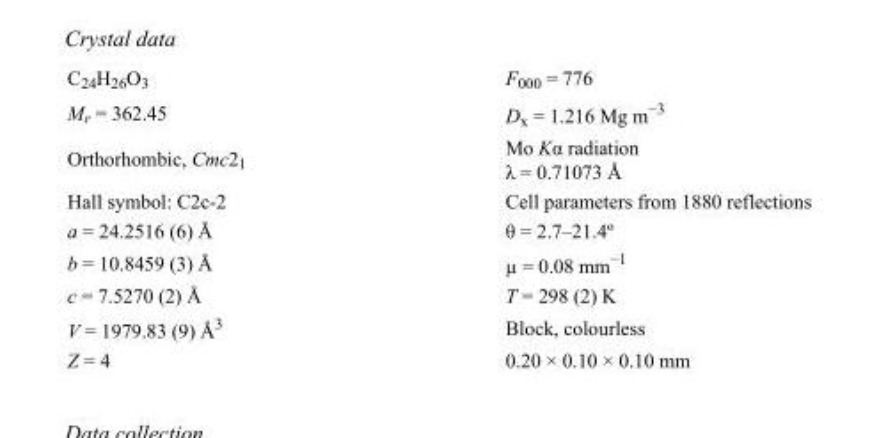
<table><tbody><tr><td>C<sub>24</sub>H<sub>26</sub>O<sub>3</sub></td><td>F000 = 776</td></tr><tr><td>M<sub>r</sub> = 362.45</td><td>D<sub>x</sub> = 1.216 Mg m<sup>−3</sup></td></tr><tr><td>Orthorhombic, Cmc2<sub>1</sub></td><td>Mo Kα radiation λ = 0.71073 Å</td></tr><tr><td>Hall symbol: C2c-2</td><td>Cell parameters from 1880 reflections</td></tr><tr><td>a = 24.2516 (6) Å</td><td>θ = 2.7–21.4º</td></tr><tr><td>b = 10.8459 (3) Å</td><td>µ = 0.08 mm<sup>−1</sup></td></tr><tr><td>c = 7.5270 (2) Å</td><td>T = 298 (2) K</td></tr><tr><td>V = 1979.83 (9) Å<sup>3</sup></td><td>Block, colourless</td></tr><tr><td>Z = 4</td><td>0.20 × 0.10 × 0.10 mm</td></tr></tbody></table>